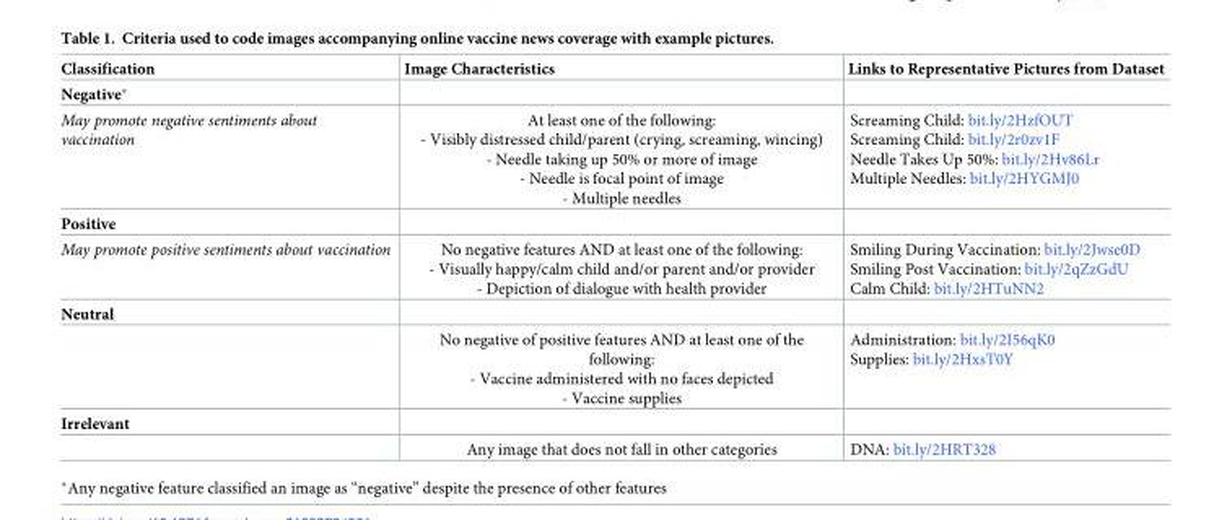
<table><thead><tr><td>Classification</td><td>Image Characteristics</td><td>Links to Representative Pictures from Dataset</td></tr></thead><tbody><tr><td colspan="3">Negative*</td></tr><tr><td>May promote negative sentiments about vaccination</td><td>At least one of the following: - Visibly distressed child/parent (crying, screaming, wincing) - Needle taking up 50% or more of image - Needle is focal point of image - Multiple needles</td><td>Screaming Child: bit.ly/2HzfOUT Screaming Child: bit.ly/2r0zv1F Needle Takes Up 50%: bit.ly/2Hv86Lr Multiple Needles: bit.ly/2HYGMJ0</td></tr><tr><td colspan="3">Positive</td></tr><tr><td>May promote positive sentiments about vaccination</td><td>No negative features AND at least one of the following: - Visually happy/calm child and/or parent and/or provider - Depiction of dialogue with health provider</td><td>Smiling During Vaccination: bit.ly/2Jwse0D Smiling Post Vaccination: bit.ly/2qZzGdU Calm Child: bit.ly/2HTuNN2</td></tr><tr><td colspan="3">Neutral</td></tr><tr><td></td><td>No negative of positive features AND at least one of the following: - Vaccine administered with no faces depicted - Vaccine supplies</td><td>Administration: bit.ly/2I56qK0 Supplies: bit.ly/2HxsT0Y</td></tr><tr><td colspan="3">Irrelevant</td></tr><tr><td></td><td>Any image that does not fall in other categories</td><td>DNA: bit.ly/2HRT328</td></tr></tbody></table>